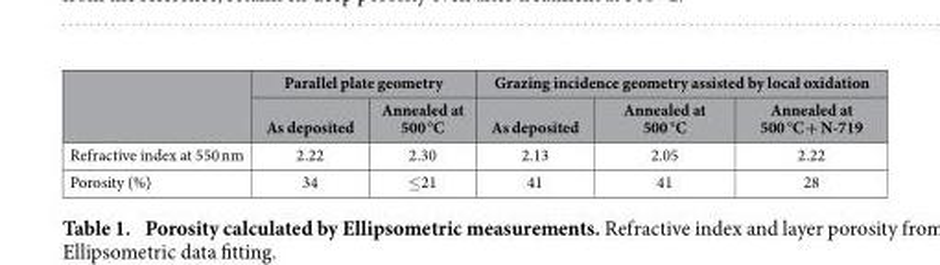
<table><thead><tr><td rowspan="2"></td><td colspan="2">Parallel plate geometry</td><td colspan="3">Grazing incidence geometry assisted by local oxidation</td></tr><tr><td>As deposited</td><td>Annealed at 500 °C</td><td>As deposited</td><td>Annealed at 500 °C</td><td>Annealed at 500 °C + N-719</td></tr></thead><tbody><tr><td>Refractive index at 550 nm</td><td>2.22</td><td>2.30</td><td>2.13</td><td>2.05</td><td>2.22</td></tr><tr><td>Porosity (%)</td><td>34</td><td>≤ 21</td><td>41</td><td>41</td><td>28</td></tr></tbody></table>